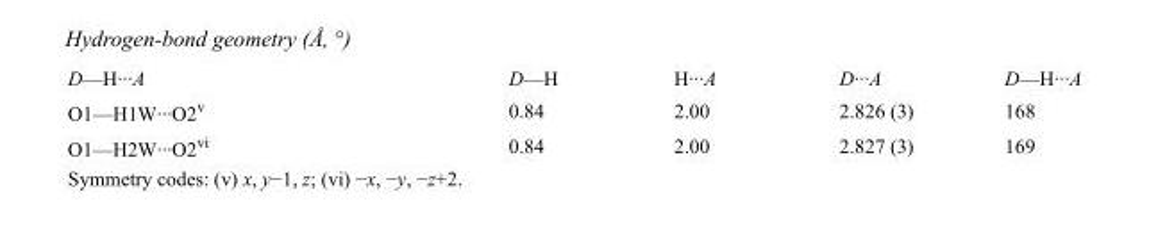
<table><tbody><tr><td>D—H···A</td><td>D—H</td><td>H···A</td><td>D···A</td><td>D—H···A</td></tr><tr><td>O1—H1W···O2<sup>v</sup></td><td>0.84</td><td>2.00</td><td>2.826 (3)</td><td>168</td></tr><tr><td>O1—H2W···O2<sup>vi</sup></td><td>0.84</td><td>2.00</td><td>2.827 (3)</td><td>169</td></tr></tbody></table>